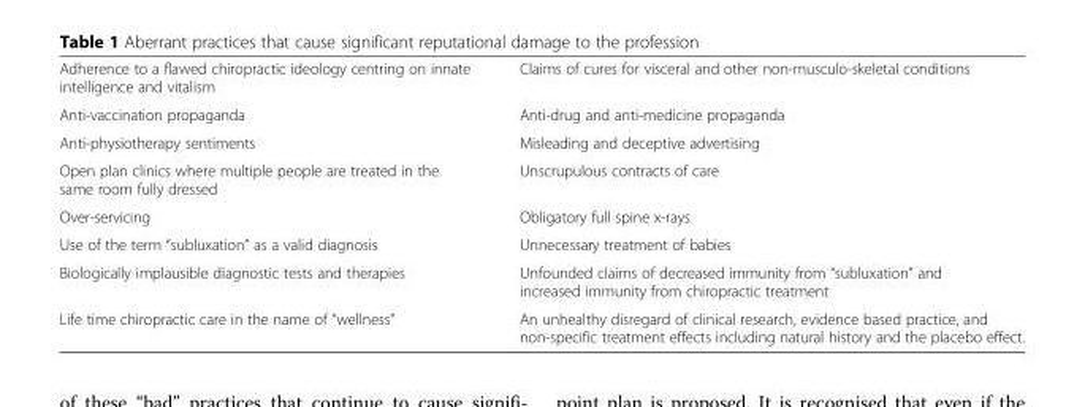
<table><tbody><tr><td>Adherence to a flawed chiropractic ideology centring on innate intelligence and vitalism</td><td>Claims of cures for visceral and other non-musculo-skeletal conditions</td></tr><tr><td>Anti-vaccination propaganda</td><td>Anti-drug and anti-medicine propaganda</td></tr><tr><td>Anti-physiotherapy sentiments</td><td>Misleading and deceptive advertising</td></tr><tr><td>Open plan clinics where multiple people are treated in the same room fully dressed</td><td>Unscrupulous contracts of care</td></tr><tr><td>Over-servicing</td><td>Obligatory full spine x-rays</td></tr><tr><td>Use of the term “subluxation” as a valid diagnosis</td><td>Unnecessary treatment of babies</td></tr><tr><td>Biologically implausible diagnostic tests and therapies</td><td>Unfounded claims of decreased immunity from “subluxation” and increased immunity from chiropractic treatment</td></tr><tr><td>Life time chiropractic care in the name of “wellness”</td><td>An unhealthy disregard of clinical research, evidence based practice, and non-specific treatment effects including natural history and the placebo effect.</td></tr></tbody></table>